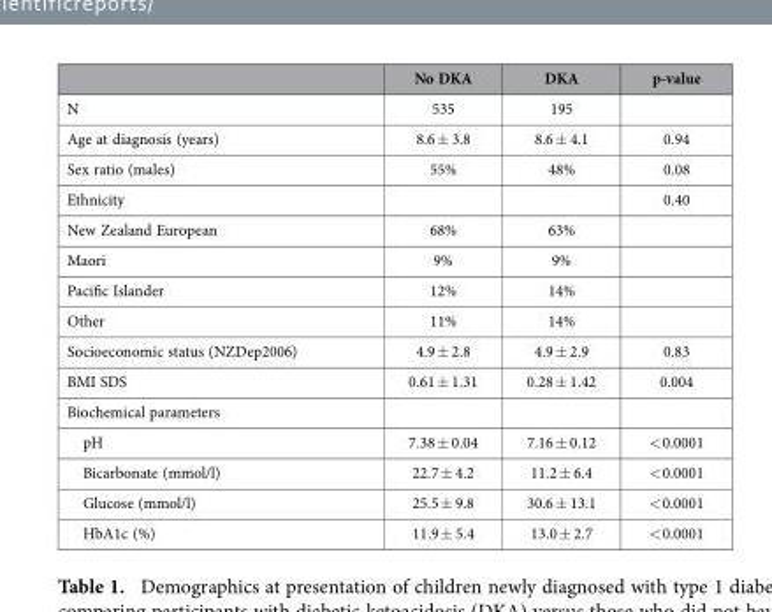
<table><thead><tr><td></td><td>No DKA</td><td>DKA</td><td>p-value</td></tr></thead><tbody><tr><td>N</td><td>535</td><td>195</td><td></td></tr><tr><td>Age at diagnosis (years)</td><td>8.6 ± 3.8</td><td>8.6 ± 4.1</td><td>0.94</td></tr><tr><td>Sex ratio (males)</td><td>55%</td><td>48%</td><td>0.08</td></tr><tr><td>Ethnicity</td><td></td><td></td><td>0.40</td></tr><tr><td>New Zealand European</td><td>68%</td><td>63%</td><td></td></tr><tr><td>Maori</td><td>9%</td><td>9%</td><td></td></tr><tr><td>Pacific Islander</td><td>12%</td><td>14%</td><td></td></tr><tr><td>Other</td><td>11%</td><td>14%</td><td></td></tr><tr><td>Socioeconomic status (NZDep2006)</td><td>4.9 ± 2.8</td><td>4.9 ± 2.9</td><td>0.83</td></tr><tr><td>BMI SDS</td><td>0.61 ± 1.31</td><td>0.28 ± 1.42</td><td>0.004</td></tr><tr><td colspan="4">Biochemical parameters</td></tr><tr><td>pH</td><td>7.38 ± 0.04</td><td>7.16 ± 0.12</td><td>&lt; 0.0001</td></tr><tr><td>Bicarbonate (mmol/l)</td><td>22.7 ± 4.2</td><td>11.2 ± 6.4</td><td>&lt; 0.0001</td></tr><tr><td>Glucose (mmol/l)</td><td>25.5 ± 9.8</td><td>30.6 ± 13.1</td><td>&lt; 0.0001</td></tr><tr><td>HbA1c (%)</td><td>11.9 ± 5.4</td><td>13.0 ± 2.7</td><td>&lt; 0.0001</td></tr></tbody></table>